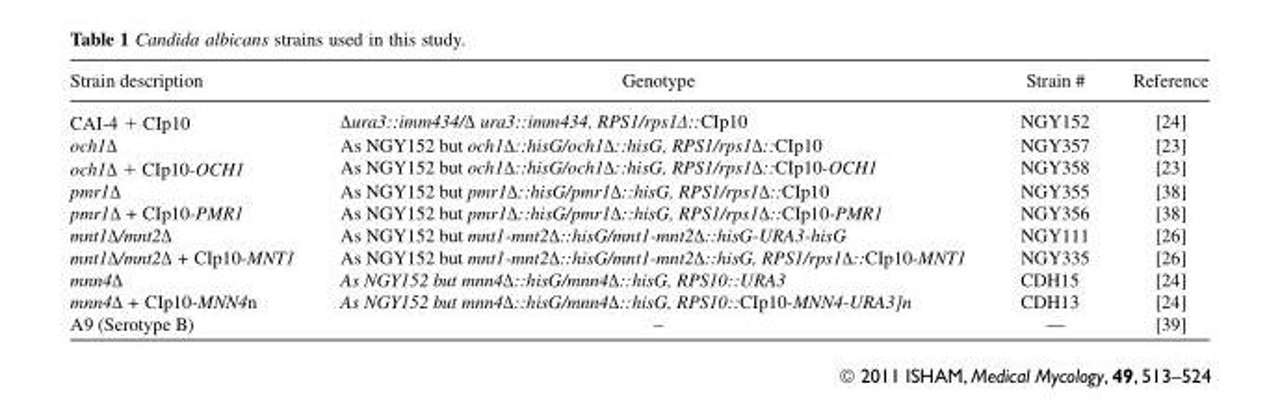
<table><thead><tr><td>Strain description</td><td>Genotype</td><td>Strain #</td><td>Reference</td></tr></thead><tbody><tr><td>CAI-4 + CIp10</td><td>Δura3::imm434/Δ ura3::imm434, RPS1/rps1Δ::CIp10</td><td>NGY152</td><td>[24]</td></tr><tr><td>och1Δ</td><td>As NGY152 but och1Δ::hisG/och1Δ::hisG, RPS1/rps1Δ::CIp10</td><td>NGY357</td><td>[23]</td></tr><tr><td>och1Δ + CIp10-OCH1</td><td>As NGY152 but och1Δ::hisG/och1Δ::hisG, RPS1/rps1Δ::CIp10-OCH1</td><td>NGY358</td><td>[23]</td></tr><tr><td>pmr1Δ</td><td>As NGY152 but pmr1Δ::hisG/pmr1Δ::hisG, RPS1/rps1Δ::CIp10</td><td>NGY355</td><td>[38]</td></tr><tr><td>pmr1Δ + CIp10-PMR1</td><td>As NGY152 but pmr1Δ::hisG/pmr1Δ::hisG, RPS1/rps1Δ::CIp10-PMR1</td><td>NGY356</td><td>[38]</td></tr><tr><td>mnt1Δ/mnt2Δ</td><td>As NGY152 but mnt1-mnt2Δ::hisG/mnt1-mnt2Δ::hisG-URA3-hisG</td><td>NGY111</td><td>[26]</td></tr><tr><td>mnt1Δ/mnt2Δ + CIp10-MNT1</td><td>As NGY152 but mnt1-mnt2Δ::hisG/mnt1-mnt2Δ::hisG, RPS1/rps1Δ::CIp10-MNT1</td><td>NGY335</td><td>[26]</td></tr><tr><td>mnn4Δ</td><td>As NGY152 but mnn4Δ::hisG/mnn4Δ::hisG, RPS10::URA3</td><td>CDH15</td><td>[24]</td></tr><tr><td>mnn4Δ + CIp10-MNN4n</td><td>As NGY152 but mnn4Δ::hisG/mnn4Δ::hisG, RPS10::CIp10-MNN4-URA3] n</td><td>CDH13</td><td>[24]</td></tr><tr><td>A9 (Serotype B)</td><td>–</td><td>—</td><td>[39]</td></tr></tbody></table>